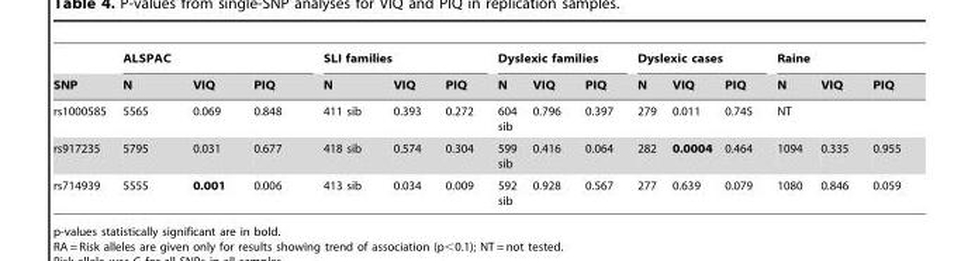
<table><thead><tr><td rowspan="2">SNP</td><td colspan="3">ALSPAC</td><td colspan="3">SLI families</td><td colspan="3">Dyslexic families</td><td colspan="3">Dyslexic cases</td><td colspan="3">Raine</td></tr><tr><td>N</td><td>VIQ</td><td>PIQ</td><td>N</td><td>VIQ</td><td>PIQ</td><td>N</td><td>VIQ</td><td>PIQ</td><td>N</td><td>VIQ</td><td>PIQ</td><td>N</td><td>VIQ</td><td>PIQ</td></tr></thead><tbody><tr><td>rs1000585</td><td>5565</td><td>0.069</td><td>0.848</td><td>411 sib</td><td>0.393</td><td>0.272</td><td>604 sib</td><td>0.796</td><td>0.397</td><td>279</td><td>0.011</td><td>0.745</td><td>NT</td><td></td><td></td></tr><tr><td>rs917235</td><td>5795</td><td>0.031</td><td>0.677</td><td>418 sib</td><td>0.574</td><td>0.304</td><td>599 sib</td><td>0.416</td><td>0.064</td><td>282</td><td>0.0004</td><td>0.464</td><td>1094</td><td>0.335</td><td>0.955</td></tr><tr><td>rs714939</td><td>5555</td><td>0.001</td><td>0.006</td><td>413 sib</td><td>0.034</td><td>0.009</td><td>592 sib</td><td>0.928</td><td>0.567</td><td>277</td><td>0.639</td><td>0.079</td><td>1080</td><td>0.846</td><td>0.059</td></tr></tbody></table>